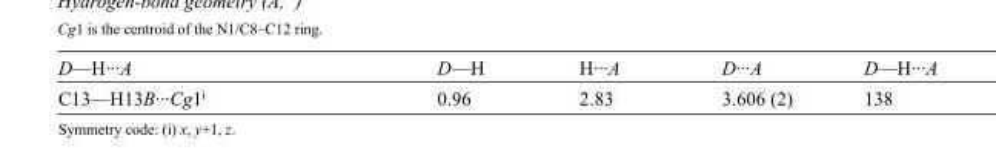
<table><tbody><tr><td>D—H···A</td><td>D—H</td><td>H···A</td><td>D···A</td><td>D—H···A</td></tr><tr><td>C13—H13B···Cg1<sup>i</sup></td><td>0.96</td><td>2.83</td><td>3.606 (2)</td><td>138</td></tr></tbody></table>